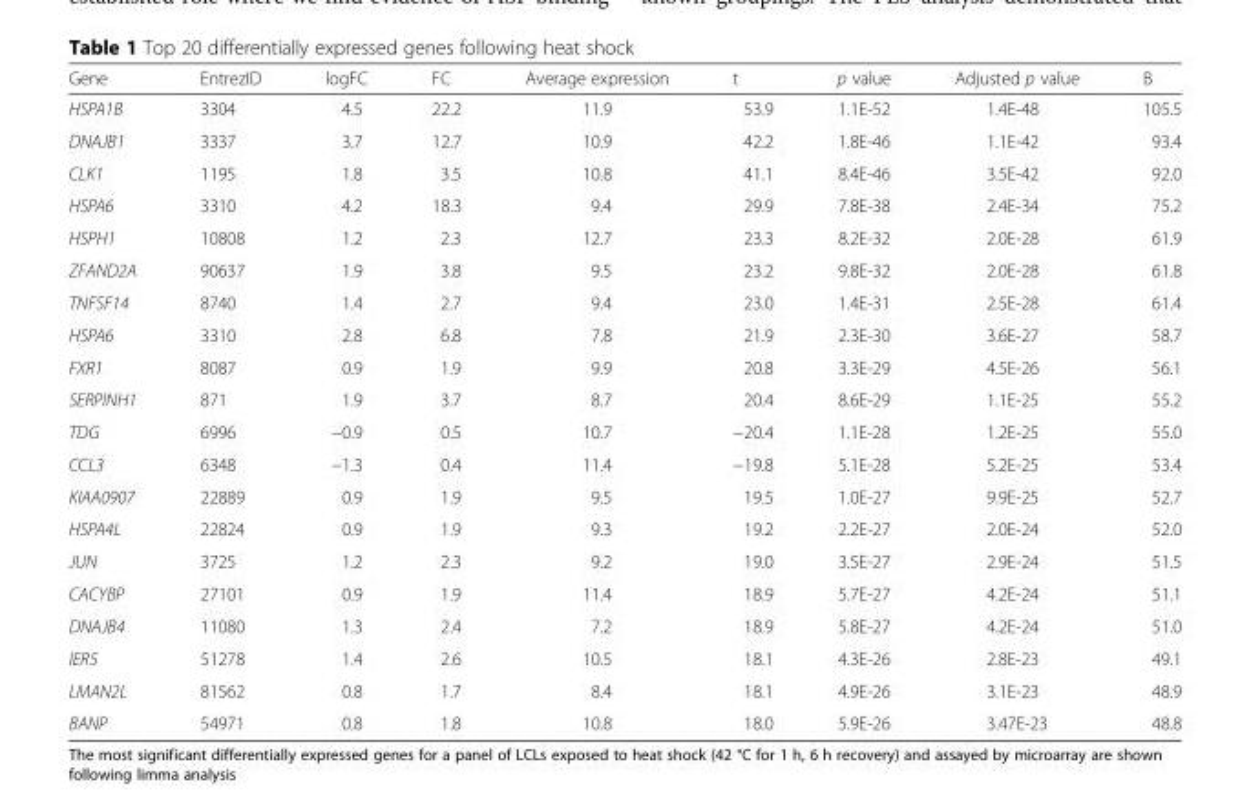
<table><thead><tr><td>Gene</td><td>EntrezID</td><td>logFC</td><td>FC</td><td>Average expression</td><td>t</td><td>p value</td><td>Adjusted p value</td><td>B</td></tr></thead><tbody><tr><td>HSPA1B</td><td>3304</td><td>4.5</td><td>22.2</td><td>11.9</td><td>53.9</td><td>1.1E-52</td><td>1.4E-48</td><td>105.5</td></tr><tr><td>DNAJB1</td><td>3337</td><td>3.7</td><td>12.7</td><td>10.9</td><td>42.2</td><td>1.8E-46</td><td>1.1E-42</td><td>93.4</td></tr><tr><td>CLK1</td><td>1195</td><td>1.8</td><td>3.5</td><td>10.8</td><td>41.1</td><td>8.4E-46</td><td>3.5E-42</td><td>92.0</td></tr><tr><td>HSPA6</td><td>3310</td><td>4.2</td><td>18.3</td><td>9.4</td><td>29.9</td><td>7.8E-38</td><td>2.4E-34</td><td>75.2</td></tr><tr><td>HSPH1</td><td>10808</td><td>1.2</td><td>2.3</td><td>12.7</td><td>23.3</td><td>8.2E-32</td><td>2.0E-28</td><td>61.9</td></tr><tr><td>ZFAND2A</td><td>90637</td><td>1.9</td><td>3.8</td><td>9.5</td><td>23.2</td><td>9.8E-32</td><td>2.0E-28</td><td>61.8</td></tr><tr><td>TNFSF14</td><td>8740</td><td>1.4</td><td>2.7</td><td>9.4</td><td>23.0</td><td>1.4E-31</td><td>2.5E-28</td><td>61.4</td></tr><tr><td>HSPA6</td><td>3310</td><td>2.8</td><td>6.8</td><td>7.8</td><td>21.9</td><td>2.3E-30</td><td>3.6E-27</td><td>58.7</td></tr><tr><td>FXR1</td><td>8087</td><td>0.9</td><td>1.9</td><td>9.9</td><td>20.8</td><td>3.3E-29</td><td>4.5E-26</td><td>56.1</td></tr><tr><td>SERPINH1</td><td>871</td><td>1.9</td><td>3.7</td><td>8.7</td><td>20.4</td><td>8.6E-29</td><td>1.1E-25</td><td>55.2</td></tr><tr><td>TDG</td><td>6996</td><td>−0.9</td><td>0.5</td><td>10.7</td><td>−20.4</td><td>1.1E-28</td><td>1.2E-25</td><td>55.0</td></tr><tr><td>CCL3</td><td>6348</td><td>−1.3</td><td>0.4</td><td>11.4</td><td>−19.8</td><td>5.1E-28</td><td>5.2E-25</td><td>53.4</td></tr><tr><td>KIAA0907</td><td>22889</td><td>0.9</td><td>1.9</td><td>9.5</td><td>19.5</td><td>1.0E-27</td><td>9.9E-25</td><td>52.7</td></tr><tr><td>HSPA4L</td><td>22824</td><td>0.9</td><td>1.9</td><td>9.3</td><td>19.2</td><td>2.2E-27</td><td>2.0E-24</td><td>52.0</td></tr><tr><td>JUN</td><td>3725</td><td>1.2</td><td>2.3</td><td>9.2</td><td>19.0</td><td>3.5E-27</td><td>2.9E-24</td><td>51.5</td></tr><tr><td>CACYBP</td><td>27101</td><td>0.9</td><td>1.9</td><td>11.4</td><td>18.9</td><td>5.7E-27</td><td>4.2E-24</td><td>51.1</td></tr><tr><td>DNAJB4</td><td>11080</td><td>1.3</td><td>2.4</td><td>7.2</td><td>18.9</td><td>5.8E-27</td><td>4.2E-24</td><td>51.0</td></tr><tr><td>IER5</td><td>51278</td><td>1.4</td><td>2.6</td><td>10.5</td><td>18.1</td><td>4.3E-26</td><td>2.8E-23</td><td>49.1</td></tr><tr><td>LMAN2L</td><td>81562</td><td>0.8</td><td>1.7</td><td>8.4</td><td>18.1</td><td>4.9E-26</td><td>3.1E-23</td><td>48.9</td></tr><tr><td>BANP</td><td>54971</td><td>0.8</td><td>1.8</td><td>10.8</td><td>18.0</td><td>5.9E-26</td><td>3.47E-23</td><td>48.8</td></tr></tbody></table>